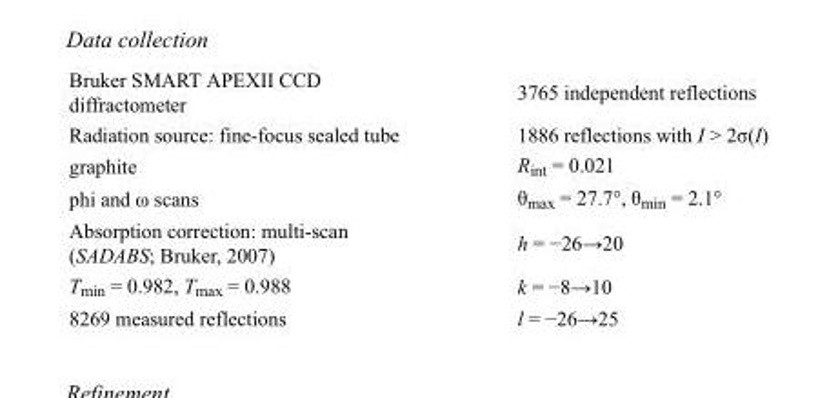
<table><tbody><tr><td>Bruker SMART APEXII CCD diffractometer</td><td>3765 independent reflections</td></tr><tr><td>Radiation source: fine-focus sealed tube</td><td>1886 reflections with I &gt; 2σ(I)</td></tr><tr><td>graphite</td><td>R<sub>int</sub> = 0.021</td></tr><tr><td>phi and ω scans</td><td>θ<sub>max</sub> = 27.7°, θ<sub>min</sub> = 2.1°</td></tr><tr><td>Absorption correction: multi-scan (SADABS; Bruker, 2007)</td><td>h = −26→20</td></tr><tr><td>T<sub>min</sub> = 0.982, T<sub>max</sub> = 0.988</td><td>k = −8→10</td></tr><tr><td>8269 measured reflections</td><td>l = −26→25</td></tr></tbody></table>